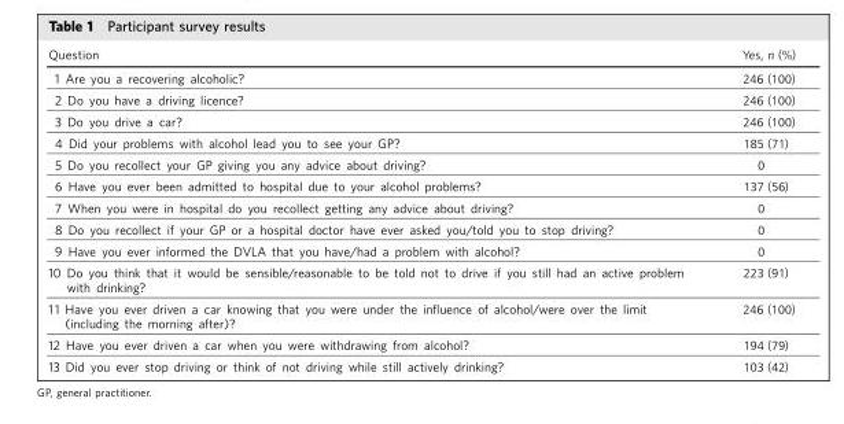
<table><thead><tr><td>Question</td><td>Yes, n (%)</td></tr></thead><tbody><tr><td>1 Are you a recovering alcoholic?</td><td>246 (100)</td></tr><tr><td>2 Do you have a driving licence?</td><td>246 (100)</td></tr><tr><td>3 Do you drive a car?</td><td>246 (100)</td></tr><tr><td>4 Did your problems with alcohol lead you to see your GP?</td><td>185 (71)</td></tr><tr><td>5 Do you recollect your GP giving you any advice about driving?</td><td>0</td></tr><tr><td>6 Have you ever been admitted to hospital due to your alcohol problems?</td><td>137 (56)</td></tr><tr><td>7 When you were in hospital do you recollect getting any advice about driving?</td><td>0</td></tr><tr><td>8 Do you recollect if your GP or a hospital doctor have ever asked you/told you to stop driving?</td><td>0</td></tr><tr><td>9 Have you ever informed the DVLA that you have/had a problem with alcohol?</td><td>0</td></tr><tr><td>10 Do you think that it would be sensible/reasonable to be told not to drive if you still had an active problem with drinking?</td><td>223 (91)</td></tr><tr><td>11 Have you ever driven a car knowing that you were under the influence of alcohol/were over the limit (including the morning after)?</td><td>246 (100)</td></tr><tr><td>12 Have you ever driven a car when you were withdrawing from alcohol?</td><td>194 (79)</td></tr><tr><td>13 Did you ever stop driving or think of not driving while still actively drinking?</td><td>103 (42)</td></tr></tbody></table>